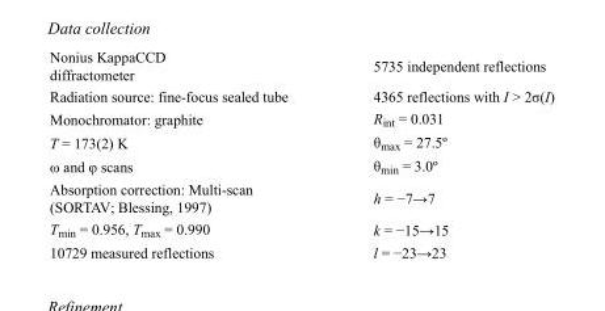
<table><tbody><tr><td>Nonius KappaCCD diffractometer</td><td>5735 independent reflections</td></tr><tr><td>Radiation source: fine-focus sealed tube</td><td>4365 reflections with I &gt; 2σ(I)</td></tr><tr><td>Monochromator: graphite</td><td>R<sub>int</sub> = 0.031</td></tr><tr><td>T = 173(2) K</td><td>θ<sub>max</sub> = 27.5º</td></tr><tr><td>ω and φ scans</td><td>θ<sub>min</sub> = 3.0º</td></tr><tr><td>Absorption correction: Multi-scan (SORTAV; Blessing, 1997)</td><td>h = −7→7</td></tr><tr><td>T<sub>min</sub> = 0.956, T<sub>max</sub> = 0.990</td><td>k = −15→15</td></tr><tr><td>10729 measured reflections</td><td>l = −23→23</td></tr></tbody></table>